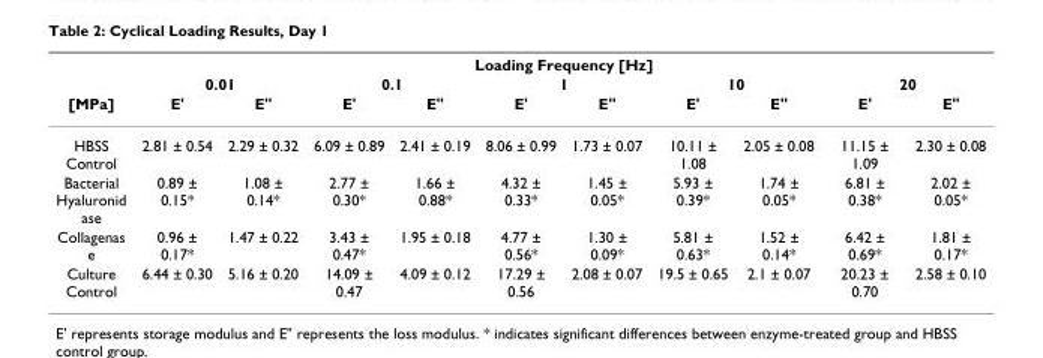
<table><thead><tr><td rowspan="3">[MPa]</td><td colspan="10">Loading Frequency [Hz]</td></tr><tr><td colspan="2">0.01</td><td colspan="2">0.1</td><td colspan="2">1</td><td colspan="2">10</td><td colspan="2">20</td></tr><tr><td>E&#x27;</td><td>E&quot;</td><td>E&#x27;</td><td>E&quot;</td><td>E&#x27;</td><td>E&quot;</td><td>E&#x27;</td><td>E&quot;</td><td>E&#x27;</td><td>E&quot;</td></tr></thead><tbody><tr><td>HBSS Control</td><td>2.81 ± 0.54</td><td>2.29 ± 0.32</td><td>6.09 ± 0.89</td><td>2.41 ± 0.19</td><td>8.06 ± 0.99</td><td>1.73 ± 0.07</td><td>10.11 ± 1.08</td><td>2.05 ± 0.08</td><td>11.15 ± 1.09</td><td>2.30 ± 0.08</td></tr><tr><td>Bacterial Hyaluronid ase</td><td>0.89 ± 0.15*</td><td>1.08 ± 0.14*</td><td>2.77 ± 0.30*</td><td>1.66 ± 0.88*</td><td>4.32 ± 0.33*</td><td>1.45 ± 0.05*</td><td>5.93 ± 0.39*</td><td>1.74 ± 0.05*</td><td>6.81 ± 0.38*</td><td>2.02 ± 0.05*</td></tr><tr><td>Collagenas e</td><td>0.96 ± 0.17*</td><td>1.47 ± 0.22</td><td>3.43 ± 0.47*</td><td>1.95 ± 0.18</td><td>4.77 ± 0.56*</td><td>1.30 ± 0.09*</td><td>5.81 ± 0.63*</td><td>1.52 ± 0.14*</td><td>6.42 ± 0.69*</td><td>1.81 ± 0.17*</td></tr><tr><td>Culture Control</td><td>6.44 ± 0.30</td><td>5.16 ± 0.20</td><td>14.09 ± 0.47</td><td>4.09 ± 0.12</td><td>17.29 ± 0.56</td><td>2.08 ± 0.07</td><td>19.5 ± 0.65</td><td>2.1 ± 0.07</td><td>20.23 ± 0.70</td><td>2.58 ± 0.10</td></tr></tbody></table>